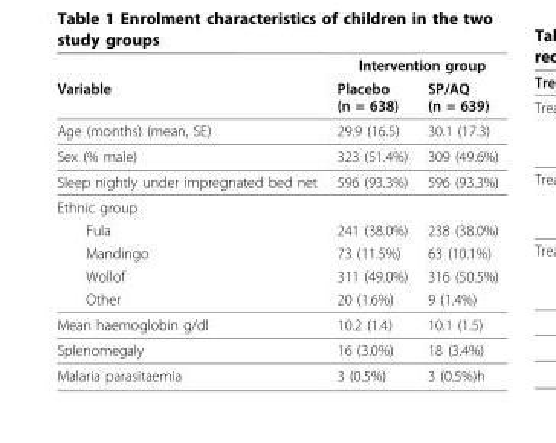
<table><thead><tr><td rowspan="2">Variable</td><td colspan="2">Intervention group</td></tr><tr><td>Placebo (n = 638)</td><td>SP/AQ (n = 639)</td></tr></thead><tbody><tr><td>Age (months) (mean, SE)</td><td>29.9 (16.5)</td><td>30.1 (17.3)</td></tr><tr><td>Sex (% male)</td><td>323 (51.4%)</td><td>309 (49.6%)</td></tr><tr><td>Sleep nightly under impregnated bed net</td><td>596 (93.3%)</td><td>596 (93.3%)</td></tr><tr><td colspan="3">Ethnic group</td></tr><tr><td>Fula</td><td>241 (38.0%)</td><td>238 (38.0%)</td></tr><tr><td>Mandingo</td><td>73 (11.5%)</td><td>63 (10.1%)</td></tr><tr><td>Wollof</td><td>311 (49.0%)</td><td>316 (50.5%)</td></tr><tr><td>Other</td><td>20 (1.6%)</td><td>9 (1.4%)</td></tr><tr><td>Mean haemoglobin g/dl</td><td>10.2 (1.4)</td><td>10.1 (1.5)</td></tr><tr><td>Splenomegaly</td><td>16 (3.0%)</td><td>18 (3.4%)</td></tr><tr><td>Malaria parasitaemia</td><td>3 (0.5%)</td><td>3 (0.5%)h</td></tr></tbody></table>